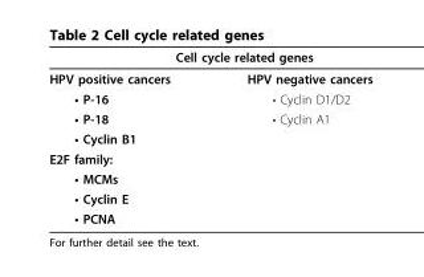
<table><thead><tr><td colspan="2">Cell cycle related genes</td></tr><tr><td>HPV positive cancers</td><td>HPV negative cancers</td></tr></thead><tbody><tr><td>• P-16</td><td>• Cyclin D1/D2</td></tr><tr><td>• P-18</td><td>• Cyclin A1</td></tr><tr><td colspan="2">• Cyclin B1</td></tr><tr><td colspan="2">E2F family:</td></tr><tr><td colspan="2">• MCMs</td></tr><tr><td colspan="2">• Cyclin E</td></tr><tr><td>• PCNA</td><td></td></tr></tbody></table>